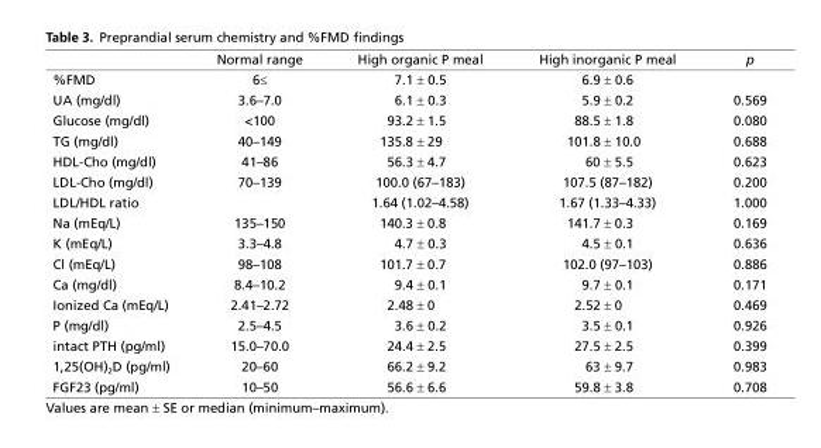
<table><thead><tr><td></td><td>Normal range</td><td>High organic P meal</td><td>High inorganic P meal</td><td>p</td></tr></thead><tbody><tr><td>%FMD</td><td>6≤</td><td>7.1 ± 0.5</td><td>6.9 ± 0.6</td><td></td></tr><tr><td>UA (mg/dl)</td><td>3.6–7.0</td><td>6.1 ± 0.3</td><td>5.9 ± 0.2</td><td>0.569</td></tr><tr><td>Glucose (mg/dl)</td><td>&lt;100</td><td>93.2 ± 1.5</td><td>88.5 ± 1.8</td><td>0.080</td></tr><tr><td>TG (mg/dl)</td><td>40–149</td><td>135.8 ± 29</td><td>101.8 ± 10.0</td><td>0.688</td></tr><tr><td>HDL-Cho (mg/dl)</td><td>41–86</td><td>56.3 ± 4.7</td><td>60 ± 5.5</td><td>0.623</td></tr><tr><td>LDL-Cho (mg/dl)</td><td>70–139</td><td>100.0 (67–183)</td><td>107.5 (87–182)</td><td>0.200</td></tr><tr><td>LDL/HDL ratio</td><td></td><td>1.64 (1.02–4.58)</td><td>1.67 (1.33–4.33)</td><td>1.000</td></tr><tr><td>Na (mEq/L)</td><td>135–150</td><td>140.3 ± 0.8</td><td>141.7 ± 0.3</td><td>0.169</td></tr><tr><td>K (mEq/L)</td><td>3.3–4.8</td><td>4.7 ± 0.3</td><td>4.5 ± 0.1</td><td>0.636</td></tr><tr><td>Cl (mEq/L)</td><td>98–108</td><td>101.7 ± 0.7</td><td>102.0 (97–103)</td><td>0.886</td></tr><tr><td>Ca (mg/dl)</td><td>8.4–10.2</td><td>9.4 ± 0.1</td><td>9.7 ± 0.1</td><td>0.171</td></tr><tr><td>Ionized Ca (mEq/L)</td><td>2.41–2.72</td><td>2.48 ± 0</td><td>2.52 ± 0</td><td>0.469</td></tr><tr><td>P (mg/dl)</td><td>2.5–4.5</td><td>3.6 ± 0.2</td><td>3.5 ± 0.1</td><td>0.926</td></tr><tr><td>intact PTH (pg/ml)</td><td>15.0–70.0</td><td>24.4 ± 2.5</td><td>27.5 ± 2.5</td><td>0.399</td></tr><tr><td>1,25(OH)<sub>2</sub>D (pg/ml)</td><td>20–60</td><td>66.2 ± 9.2</td><td>63 ± 9.7</td><td>0.983</td></tr><tr><td>FGF23 (pg/ml)</td><td>10–50</td><td>56.6 ± 6.6</td><td>59.8 ± 3.8</td><td>0.708</td></tr></tbody></table>